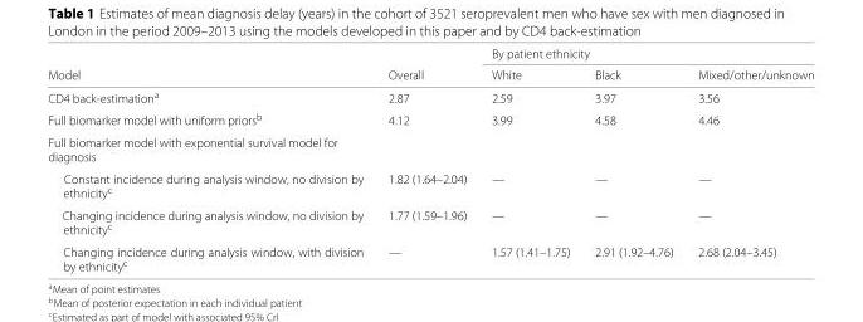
<table><thead><tr><td rowspan="2">Model</td><td rowspan="2">Overall</td><td colspan="3">By patient ethnicity</td></tr><tr><td>White</td><td>Black</td><td>Mixed/other/unknown</td></tr></thead><tbody><tr><td>CD4 back-estimation<sup>a</sup></td><td>2.87</td><td>2.59</td><td>3.97</td><td>3.56</td></tr><tr><td>Full biomarker model with uniform priors<sup>b</sup></td><td>4.12</td><td>3.99</td><td>4.58</td><td>4.46</td></tr><tr><td colspan="5">Full biomarker model with exponential survival model for diagnosis</td></tr><tr><td>Constant incidence during analysis window, no division by ethnicity<sup>c</sup></td><td>1.82 (1.64–2.04)</td><td>—</td><td>—</td><td>—</td></tr><tr><td>Changing incidence during analysis window, no division by ethnicity<sup>c</sup></td><td>1.77 (1.59–1.96)</td><td>—</td><td>—</td><td>—</td></tr><tr><td>Changing incidence during analysis window, with division by ethnicity<sup>c</sup></td><td>—</td><td>1.57 (1.41–1.75)</td><td>2.91 (1.92–4.76)</td><td>2.68 (2.04–3.45)</td></tr></tbody></table>